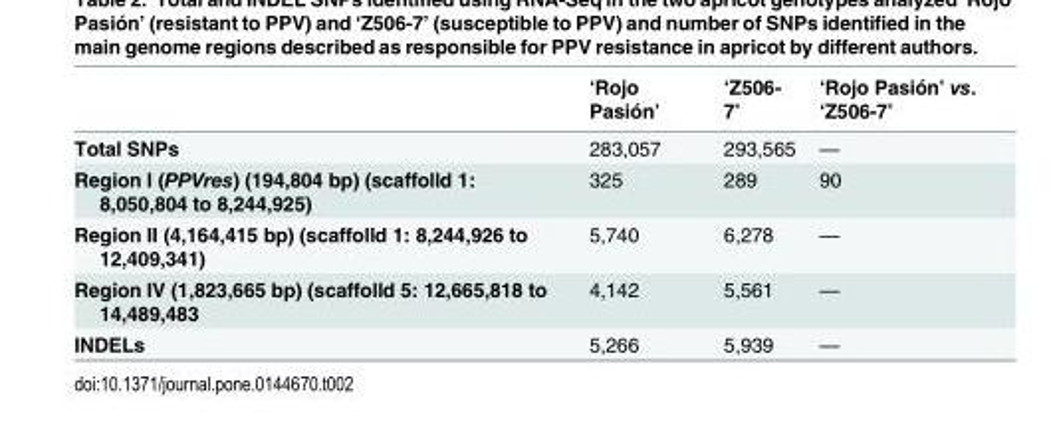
<table><thead><tr><td></td><td>‘Rojo Pasión’</td><td>‘Z506- 7’</td><td>‘Rojo Pasión’ vs. ‘Z506-7’</td></tr></thead><tbody><tr><td>Total SNPs</td><td>283,057</td><td>293,565</td><td>—</td></tr><tr><td>Region I (PPVres) (194,804 bp) (scaffolld 1: 8,050,804 to 8,244,925)</td><td>325</td><td>289</td><td>90</td></tr><tr><td>Region II (4,164,415 bp) (scaffolld 1: 8,244,926 to 12,409,341)</td><td>5,740</td><td>6,278</td><td>—</td></tr><tr><td>Region IV (1,823,665 bp) (scaffolld 5: 12,665,818 to 14,489,483</td><td>4,142</td><td>5,561</td><td>—</td></tr><tr><td>INDELs</td><td>5,266</td><td>5,939</td><td>—</td></tr></tbody></table>